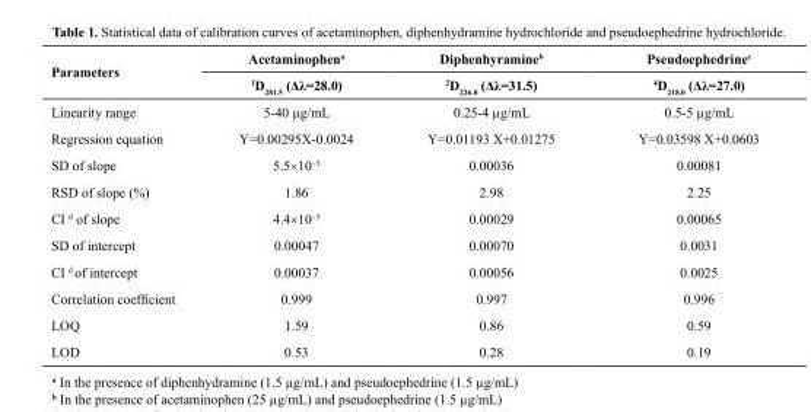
<table><thead><tr><td rowspan="2">Parameters</td><td rowspan="2">Acetaminophena <sup>1</sup>D<sub>281.5</sub> (Δλ=28.0)</td><td rowspan="2">Diphenhyramineb <sup>2</sup>D<sub>226.0</sub> (Δλ=31.5)</td><td rowspan="2">Pseudoephedrinec <sup>4</sup>D<sub>218.0</sub> (Δλ=27.0)</td></tr><tr></tr></thead><tbody><tr><td>Linearity range</td><td>5-40 µg/mL</td><td>0.25-4 µg/mL</td><td>0.5-5 µg/mL</td></tr><tr><td>Regression equation</td><td>Y=0.00295X-0.0024</td><td>Y=0.01193 X+0.01275</td><td>Y=0.03598 X+0.0603</td></tr><tr><td>SD of slope</td><td>5.5×10-5</td><td>0.00036</td><td>0.00081</td></tr><tr><td>RSD of slope (%)</td><td>1.86</td><td>2.98</td><td>2.25</td></tr><tr><td>CI d of slope</td><td>4.4×10-5</td><td>0.00029</td><td>0.00065</td></tr><tr><td>SD of intercept</td><td>0.00047</td><td>0.00070</td><td>0.0031</td></tr><tr><td>CI d of intercept</td><td>0.00037</td><td>0.00056</td><td>0.0025</td></tr><tr><td>Correlation coefficient</td><td>0.999</td><td>0.997</td><td>0.996</td></tr><tr><td>LOQ</td><td>1.59</td><td>0.86</td><td>0.59</td></tr><tr><td>LOD</td><td>0.53</td><td>0.28</td><td>0.19</td></tr></tbody></table>